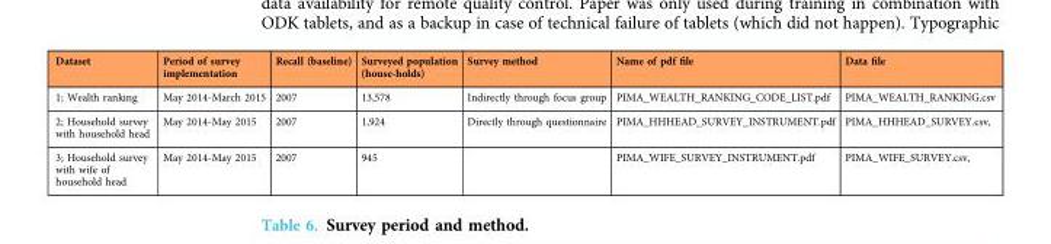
<table><thead><tr><td>Dataset</td><td>Period of survey implementation</td><td>Recall (baseline)</td><td>Surveyed population (house-holds)</td><td>Survey method</td><td>Name of pdf file</td><td>Data file</td></tr></thead><tbody><tr><td>1; Wealth ranking</td><td>May 2014-March 2015</td><td>2007</td><td>13,578</td><td>Indirectly through focus group</td><td>PIMA_WEALTH_RANKING_CODE_LIST.pdf</td><td>PIMA_WEALTH_RANKING.csv</td></tr><tr><td>2; Household survey with household head</td><td>May 2014-May 2015</td><td>2007</td><td>1,924</td><td>Directly through questionnaire</td><td>PIMA_HHHEAD_SURVEY_INSTRUMENT.pdf</td><td>PIMA_HHHEAD_SURVEY.csv,</td></tr><tr><td>3; Household survey with wife of household head</td><td>May 2014-May 2015</td><td>2007</td><td>945</td><td></td><td>PIMA_WIFE_SURVEY_INSTRUMENT.pdf</td><td>PIMA_WIFE_SURVEY.csv,</td></tr></tbody></table>